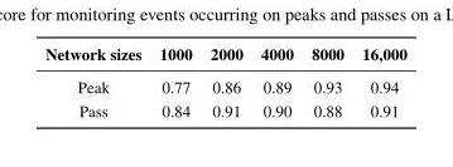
<table><thead><tr><td>Network sizes</td><td>1000</td><td>2000</td><td>4000</td><td>8000</td><td>16,000</td></tr></thead><tbody><tr><td>Peak</td><td>0.77</td><td>0.86</td><td>0.89</td><td>0.93</td><td>0.94</td></tr><tr><td>Pass</td><td>0.84</td><td>0.91</td><td>0.90</td><td>0.88</td><td>0.91</td></tr></tbody></table>